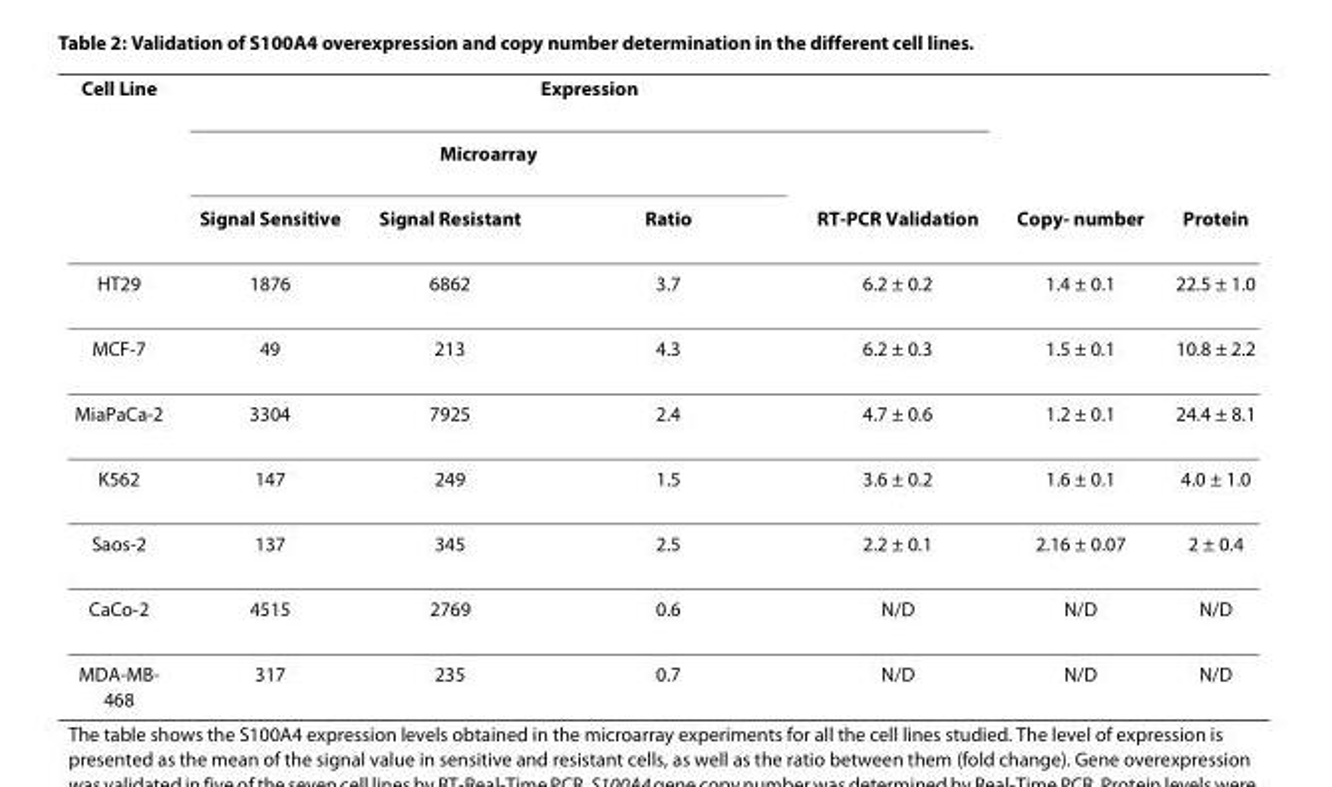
<table><thead><tr><td rowspan="3">Cell Line</td><td colspan="4">Expression</td><td rowspan="3">Copy- number</td><td rowspan="3">Protein</td></tr><tr><td colspan="3">Microarray</td><td rowspan="2">RT-PCR Validation</td></tr><tr><td>Signal Sensitive</td><td>Signal Resistant</td><td>Ratio</td></tr></thead><tbody><tr><td>HT29</td><td>1876</td><td>6862</td><td>3.7</td><td>6.2 ± 0.2</td><td>1.4 ± 0.1</td><td>22.5 ± 1.0</td></tr><tr><td>MCF-7</td><td>49</td><td>213</td><td>4.3</td><td>6.2 ± 0.3</td><td>1.5 ± 0.1</td><td>10.8 ± 2.2</td></tr><tr><td>MiaPaCa-2</td><td>3304</td><td>7925</td><td>2.4</td><td>4.7 ± 0.6</td><td>1.2 ± 0.1</td><td>24.4 ± 8.1</td></tr><tr><td>K562</td><td>147</td><td>249</td><td>1.5</td><td>3.6 ± 0.2</td><td>1.6 ± 0.1</td><td>4.0 ± 1.0</td></tr><tr><td>Saos-2</td><td>137</td><td>345</td><td>2.5</td><td>2.2 ± 0.1</td><td>2.16 ± 0.07</td><td>2 ± 0.4</td></tr><tr><td>CaCo-2</td><td>4515</td><td>2769</td><td>0.6</td><td>N/D</td><td>N/D</td><td>N/D</td></tr><tr><td>MDA-MB- 468</td><td>317</td><td>235</td><td>0.7</td><td>N/D</td><td>N/D</td><td>N/D</td></tr></tbody></table>